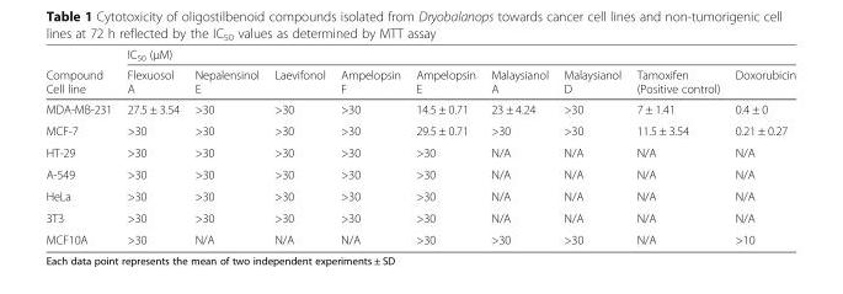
<table><thead><tr><td rowspan="3">Compound Cell line</td><td colspan="9">IC<sub>50</sub> (μM)</td></tr><tr><td rowspan="2">Flexuosol A</td><td rowspan="2">Nepalensinol E</td><td rowspan="2">Laevifonol</td><td rowspan="2">Ampelopsin F</td><td rowspan="2">Ampelopsin E</td><td rowspan="2">Malaysianol A</td><td rowspan="2">Malaysianol D</td><td rowspan="2">Tamoxifen (Positive control)</td><td rowspan="2">Doxorubicin</td></tr><tr></tr></thead><tbody><tr><td>MDA-MB-231</td><td>27.5 ± 3.54</td><td>&gt;30</td><td>&gt;30</td><td>&gt;30</td><td>14.5 ± 0.71</td><td>23 ± 4.24</td><td>&gt;30</td><td>7 ± 1.41</td><td>0.4 ± 0</td></tr><tr><td>MCF-7</td><td>&gt;30</td><td>&gt;30</td><td>&gt;30</td><td>&gt;30</td><td>29.5 ± 0.71</td><td>&gt;30</td><td>&gt;30</td><td>11.5 ± 3.54</td><td>0.21 ± 0.27</td></tr><tr><td>HT-29</td><td>&gt;30</td><td>&gt;30</td><td>&gt;30</td><td>&gt;30</td><td>&gt;30</td><td>N/A</td><td>N/A</td><td>N/A</td><td>N/A</td></tr><tr><td>A-549</td><td>&gt;30</td><td>&gt;30</td><td>&gt;30</td><td>&gt;30</td><td>&gt;30</td><td>N/A</td><td>N/A</td><td>N/A</td><td>N/A</td></tr><tr><td>HeLa</td><td>&gt;30</td><td>&gt;30</td><td>&gt;30</td><td>&gt;30</td><td>&gt;30</td><td>N/A</td><td>N/A</td><td>N/A</td><td>N/A</td></tr><tr><td>3T3</td><td>&gt;30</td><td>&gt;30</td><td>&gt;30</td><td>&gt;30</td><td>&gt;30</td><td>N/A</td><td>N/A</td><td>N/A</td><td>N/A</td></tr><tr><td>MCF10A</td><td>&gt;30</td><td>N/A</td><td>N/A</td><td>N/A</td><td>&gt;30</td><td>&gt;30</td><td>&gt;30</td><td>N/A</td><td>&gt;10</td></tr></tbody></table>